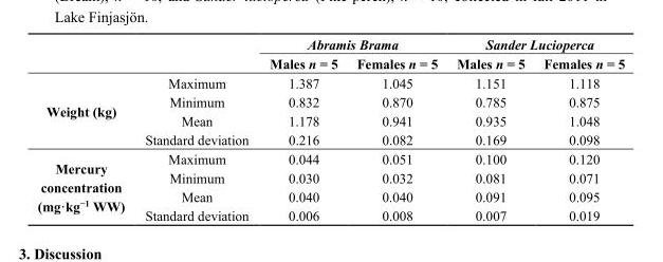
<table><thead><tr><td rowspan="2"></td><td rowspan="2"></td><td colspan="2">Abramis Brama</td><td colspan="2">Sander Lucioperca</td></tr><tr><td>Males n = 5</td><td>Females n = 5</td><td>Males n = 5</td><td>Females n = 5</td></tr></thead><tbody><tr><td rowspan="4">Weight (kg)</td><td>Maximum</td><td>1.387</td><td>1.045</td><td>1.151</td><td>1.118</td></tr><tr><td>Minimum</td><td>0.832</td><td>0.870</td><td>0.785</td><td>0.875</td></tr><tr><td>Mean</td><td>1.178</td><td>0.941</td><td>0.935</td><td>1.048</td></tr><tr><td>Standard deviation</td><td>0.216</td><td>0.082</td><td>0.169</td><td>0.098</td></tr><tr><td rowspan="4">Mercury concentration (mg·kg<sup>−1</sup> WW)</td><td>Maximum</td><td>0.044</td><td>0.051</td><td>0.100</td><td>0.120</td></tr><tr><td>Minimum</td><td>0.030</td><td>0.032</td><td>0.081</td><td>0.071</td></tr><tr><td>Mean</td><td>0.040</td><td>0.040</td><td>0.091</td><td>0.095</td></tr><tr><td>Standard deviation</td><td>0.006</td><td>0.008</td><td>0.007</td><td>0.019</td></tr></tbody></table>